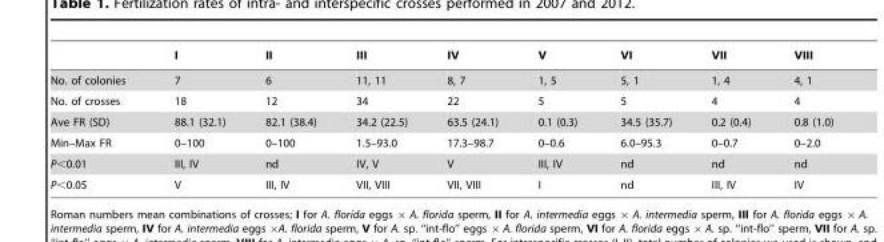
<table><thead><tr><td></td><td>I</td><td>II</td><td>III</td><td>IV</td><td>V</td><td>VI</td><td>VII</td><td>VIII</td></tr></thead><tbody><tr><td>No. of colonies</td><td>7</td><td>6</td><td>11, 11</td><td>8, 7</td><td>1, 5</td><td>5, 1</td><td>1, 4</td><td>4, 1</td></tr><tr><td>No. of crosses</td><td>18</td><td>12</td><td>34</td><td>22</td><td>5</td><td>5</td><td>4</td><td>4</td></tr><tr><td>Ave FR (SD)</td><td>88.1 (32.1)</td><td>82.1 (38.4)</td><td>34.2 (22.5)</td><td>63.5 (24.1)</td><td>0.1 (0.3)</td><td>34.5 (35.7)</td><td>0.2 (0.4)</td><td>0.8 (1.0)</td></tr><tr><td>Min–Max FR</td><td>0–100</td><td>0–100</td><td>1.5–93.0</td><td>17.3–98.7</td><td>0–0.6</td><td>6.0–95.3</td><td>0–0.7</td><td>0–2.0</td></tr><tr><td>P&lt;0.01</td><td>III, IV</td><td>nd</td><td>IV, V</td><td>V</td><td>III, IV</td><td>nd</td><td>nd</td><td>nd</td></tr><tr><td>P&lt;0.05</td><td>V</td><td>III, IV</td><td>VII, VIII</td><td>VII, VIII</td><td>I</td><td>nd</td><td>III, IV</td><td>IV</td></tr></tbody></table>